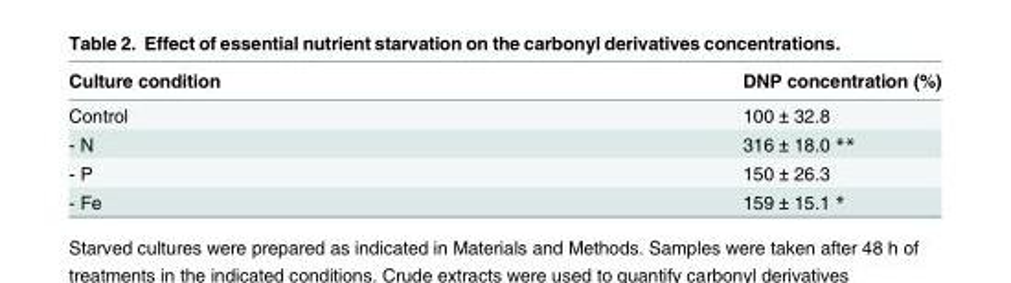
<table><thead><tr><td>Culture condition</td><td>DNP concentration (%)</td></tr></thead><tbody><tr><td>Control</td><td>100 ± 32.8</td></tr><tr><td>- N</td><td>316 ± 18.0 **</td></tr><tr><td>- P</td><td>150 ± 26.3</td></tr><tr><td>- Fe</td><td>159 ± 15.1 *</td></tr></tbody></table>